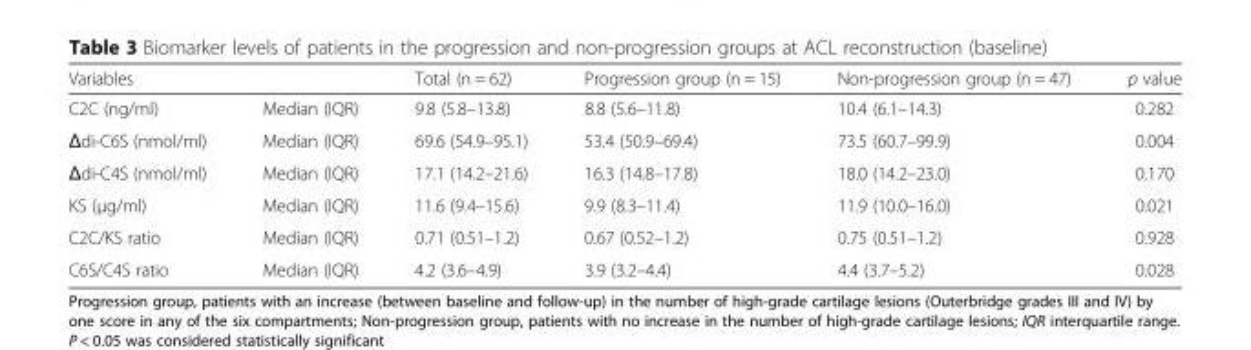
<table><thead><tr><td>Variables</td><td></td><td>Total (n = 62)</td><td>Progression group (n = 15)</td><td>Non-progression group (n = 47)</td><td>p value</td></tr></thead><tbody><tr><td>C2C (ng/ml)</td><td>Median (IQR)</td><td>9.8 (5.8–13.8)</td><td>8.8 (5.6–11.8)</td><td>10.4 (6.1–14.3)</td><td>0.282</td></tr><tr><td>Δdi-C6S (nmol/ml)</td><td>Median (IQR)</td><td>69.6 (54.9–95.1)</td><td>53.4 (50.9–69.4)</td><td>73.5 (60.7–99.9)</td><td>0.004</td></tr><tr><td>Δdi-C4S (nmol/ml)</td><td>Median (IQR)</td><td>17.1 (14.2–21.6)</td><td>16.3 (14.8–17.8)</td><td>18.0 (14.2–23.0)</td><td>0.170</td></tr><tr><td>KS (μg/ml)</td><td>Median (IQR)</td><td>11.6 (9.4–15.6)</td><td>9.9 (8.3–11.4)</td><td>11.9 (10.0–16.0)</td><td>0.021</td></tr><tr><td>C2C/KS ratio</td><td>Median (IQR)</td><td>0.71 (0.51–1.2)</td><td>0.67 (0.52–1.2)</td><td>0.75 (0.51–1.2)</td><td>0.928</td></tr><tr><td>C6S/C4S ratio</td><td>Median (IQR)</td><td>4.2 (3.6–4.9)</td><td>3.9 (3.2–4.4)</td><td>4.4 (3.7–5.2)</td><td>0.028</td></tr></tbody></table>